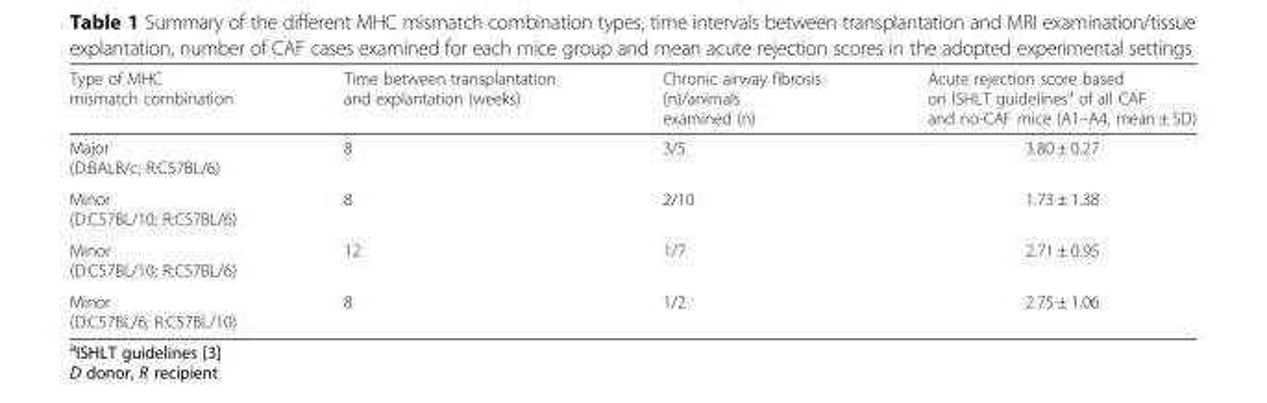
<table><thead><tr><td>Type of MHC mismatch combination</td><td>Time between transplantation and explantation (weeks)</td><td>Chronic airway fibrosis (n)/animals examined (n)</td><td>Acute rejection score based on ISHLT guidelines<sup>a</sup> of all CAF and no-CAF mice (A1–A4, mean ± SD)</td></tr></thead><tbody><tr><td>Major (D:BALB/c; R:C57BL/6)</td><td>8</td><td>3/5</td><td>3.80 ± 0.27</td></tr><tr><td>Minor (D:C57BL/10; R:C57BL/6)</td><td>8</td><td>2/10</td><td>1.73 ± 1.38</td></tr><tr><td>Minor (D:C57BL/10; R:C57BL/6)</td><td>12</td><td>1/7</td><td>2.71 ± 0.95</td></tr><tr><td>Minor (D:C57BL/6; R:C57BL/10)</td><td>8</td><td>1/2</td><td>2.75 ± 1.06</td></tr></tbody></table>